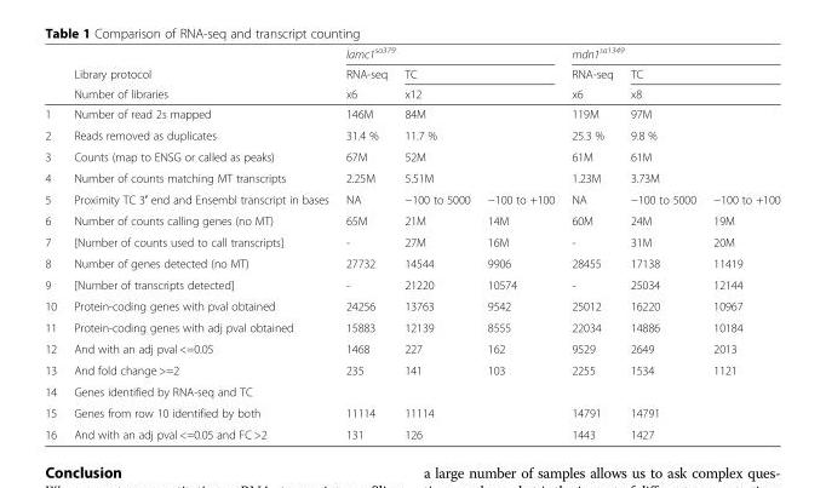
<table><thead><tr><td rowspan="3"></td><td rowspan="3">Library protocol Number of libraries</td><td colspan="3">lamc1<sup>sa379</sup></td><td colspan="3">mdn1<sup>sa1349</sup></td></tr><tr><td rowspan="2">RNA-seq x6</td><td rowspan="2" colspan="2">TC x12</td><td rowspan="2">RNA-seq x6</td><td rowspan="2" colspan="2">TC x8</td></tr><tr></tr></thead><tbody><tr><td>1</td><td>Number of read 2s mapped</td><td>146M</td><td colspan="2">84M</td><td>119M</td><td colspan="2">97M</td></tr><tr><td>2</td><td>Reads removed as duplicates</td><td>31.4 %</td><td colspan="2">11.7 %</td><td>25.3 %</td><td colspan="2">9.8 %</td></tr><tr><td>3</td><td>Counts (map to ENSG or called as peaks)</td><td>67M</td><td colspan="2">52M</td><td>61M</td><td colspan="2">61M</td></tr><tr><td>4</td><td>Number of counts matching MT transcripts</td><td>2.25M</td><td colspan="2">5.51M</td><td>1.23M</td><td colspan="2">3.73M</td></tr><tr><td>5</td><td>Proximity TC 3′ end and Ensembl transcript in bases</td><td>NA</td><td>−100 to 5000</td><td>−100 to +100</td><td>NA</td><td>−100 to 5000</td><td>−100 to +100</td></tr><tr><td>6</td><td>Number of counts calling genes (no MT)</td><td>65M</td><td>21M</td><td>14M</td><td>60M</td><td>24M</td><td>19M</td></tr><tr><td>7</td><td>[Number of counts used to call transcripts]</td><td>-</td><td>27M</td><td>16M</td><td>-</td><td>31M</td><td>20M</td></tr><tr><td>8</td><td>Number of genes detected (no MT)</td><td>27732</td><td>14544</td><td>9906</td><td>28455</td><td>17138</td><td>11419</td></tr><tr><td>9</td><td>[Number of transcripts detected]</td><td>-</td><td>21220</td><td>10574</td><td>-</td><td>25034</td><td>12144</td></tr><tr><td>10</td><td>Protein-coding genes with pval obtained</td><td>24256</td><td>13763</td><td>9542</td><td>25012</td><td>16220</td><td>10967</td></tr><tr><td>11</td><td>Protein-coding genes with adj pval obtained</td><td>15883</td><td>12139</td><td>8555</td><td>22034</td><td>14886</td><td>10184</td></tr><tr><td>12</td><td>And with an adj pval &lt;=0.05</td><td>1468</td><td>227</td><td>162</td><td>9529</td><td>2649</td><td>2013</td></tr><tr><td>13</td><td>And fold change &gt;=2</td><td>235</td><td>141</td><td>103</td><td>2255</td><td>1534</td><td>1121</td></tr><tr><td>14</td><td>Genes identified by RNA-seq and TC</td><td></td><td></td><td></td><td></td><td></td><td></td></tr><tr><td>15</td><td>Genes from row 10 identified by both</td><td>11114</td><td>11114</td><td></td><td>14791</td><td>14791</td><td></td></tr><tr><td>16</td><td>And with an adj pval &lt;=0.05 and FC &gt;2</td><td>131</td><td>126</td><td></td><td>1443</td><td>1427</td><td></td></tr></tbody></table>